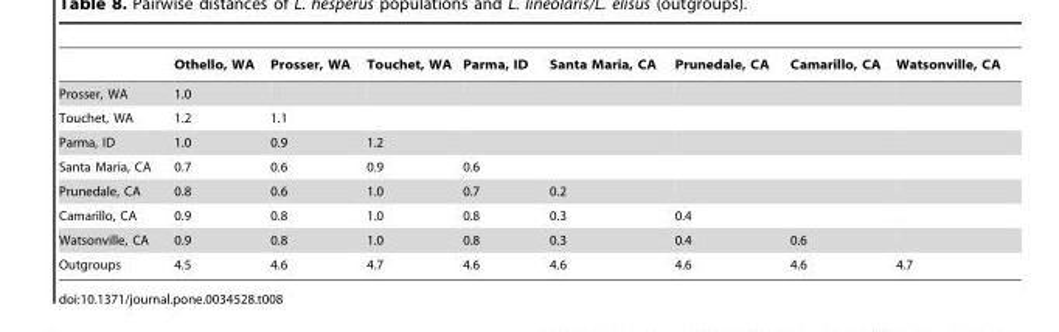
<table><thead><tr><td></td><td>Othello, WA</td><td>Prosser, WA</td><td>Touchet, WA</td><td>Parma, ID</td><td>Santa Maria, CA</td><td>Prunedale, CA</td><td>Camarillo, CA</td><td>Watsonville, CA</td></tr></thead><tbody><tr><td>Prosser, WA</td><td>1.0</td><td></td><td></td><td></td><td></td><td></td><td></td><td></td></tr><tr><td>Touchet, WA</td><td>1.2</td><td>1.1</td><td></td><td></td><td></td><td></td><td></td><td></td></tr><tr><td>Parma, ID</td><td>1.0</td><td>0.9</td><td>1.2</td><td></td><td></td><td></td><td></td><td></td></tr><tr><td>Santa Maria, CA</td><td>0.7</td><td>0.6</td><td>0.9</td><td>0.6</td><td></td><td></td><td></td><td></td></tr><tr><td>Prunedale, CA</td><td>0.8</td><td>0.6</td><td>1.0</td><td>0.7</td><td>0.2</td><td></td><td></td><td></td></tr><tr><td>Camarillo, CA</td><td>0.9</td><td>0.8</td><td>1.0</td><td>0.8</td><td>0.3</td><td>0.4</td><td></td><td></td></tr><tr><td>Watsonville, CA</td><td>0.9</td><td>0.8</td><td>1.0</td><td>0.8</td><td>0.3</td><td>0.4</td><td>0.6</td><td></td></tr><tr><td>Outgroups</td><td>4.5</td><td>4.6</td><td>4.7</td><td>4.6</td><td>4.6</td><td>4.6</td><td>4.6</td><td>4.7</td></tr></tbody></table>